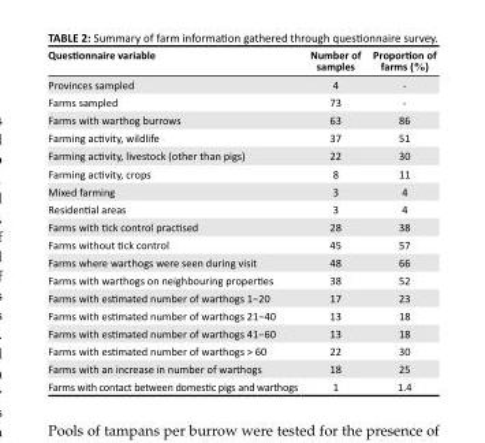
<table><thead><tr><td>Questionnaire variable</td><td>Number of samples</td><td>Proportion of farms (%)</td></tr></thead><tbody><tr><td>Provinces sampled</td><td>4</td><td>-</td></tr><tr><td>Farms sampled</td><td>73</td><td>-</td></tr><tr><td>Farms with warthog burrows</td><td>63</td><td>86</td></tr><tr><td>Farming activity, wildlife</td><td>37</td><td>51</td></tr><tr><td>Farming activity, livestock (other than pigs)</td><td>22</td><td>30</td></tr><tr><td>Farming activity, crops</td><td>8</td><td>11</td></tr><tr><td>Mixed farming</td><td>3</td><td>4</td></tr><tr><td>Residential areas</td><td>3</td><td>4</td></tr><tr><td>Farms with tick control practised</td><td>28</td><td>38</td></tr><tr><td>Farms without tick control</td><td>45</td><td>57</td></tr><tr><td>Farms where warthogs were seen during visit</td><td>48</td><td>66</td></tr><tr><td>Farms with warthogs on neighbouring properties</td><td>38</td><td>52</td></tr><tr><td>Farms with estimated number of warthogs 1−20</td><td>17</td><td>23</td></tr><tr><td>Farms with estimated number of warthogs 21−40</td><td>13</td><td>18</td></tr><tr><td>Farms with estimated number of warthogs 41−60</td><td>13</td><td>18</td></tr><tr><td>Farms with estimated number of warthogs &gt; 60</td><td>22</td><td>30</td></tr><tr><td>Farms with an increase in number of warthogs</td><td>18</td><td>25</td></tr><tr><td>Farms with contact between domestic pigs and warthogs</td><td>1</td><td>1.4</td></tr></tbody></table>